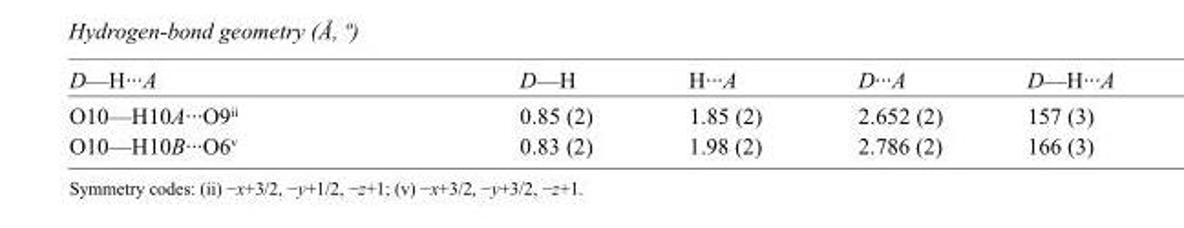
<table><tbody><tr><td>D—H···A</td><td>D—H</td><td>H···A</td><td>D···A</td><td>D—H···A</td></tr><tr><td>O10—H10A···O9<sup>ii</sup></td><td>0.85 (2)</td><td>1.85 (2)</td><td>2.652 (2)</td><td>157 (3)</td></tr><tr><td>O10—H10B···O6<sup>v</sup></td><td>0.83 (2)</td><td>1.98 (2)</td><td>2.786 (2)</td><td>166 (3)</td></tr></tbody></table>